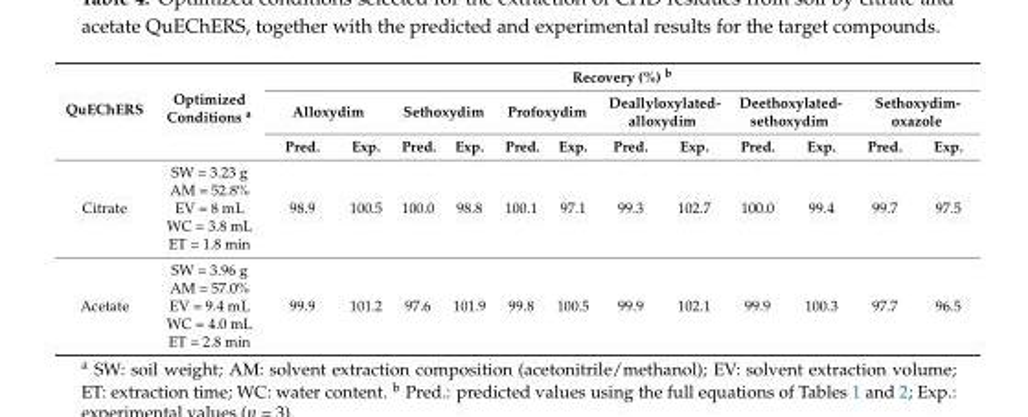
<table><thead><tr><td rowspan="3">QuEChERS</td><td rowspan="3">Optimized Conditions <sup>a</sup></td><td colspan="12">Recovery (%) <sup>b</sup></td></tr><tr><td colspan="2">Alloxydim</td><td colspan="2">Sethoxydim</td><td colspan="2">Profoxydim</td><td colspan="2">Deallyloxylated- alloxydim</td><td colspan="2">Deethoxylated- sethoxydim</td><td colspan="2">Sethoxydim- oxazole</td></tr><tr><td>Pred.</td><td>Exp.</td><td>Pred.</td><td>Exp.</td><td>Pred.</td><td>Exp.</td><td>Pred.</td><td>Exp.</td><td>Pred.</td><td>Exp.</td><td>Pred.</td><td>Exp.</td></tr></thead><tbody><tr><td>Citrate</td><td>SW = 3.23 g AM = 52.8% EV = 8 mL WC = 3.8 mL ET = 1.8 min</td><td>98.9</td><td>100.5</td><td>100.0</td><td>98.8</td><td>100.1</td><td>97.1</td><td>99.3</td><td>102.7</td><td>100.0</td><td>99.4</td><td>99.7</td><td>97.5</td></tr><tr><td>Acetate</td><td>SW = 3.96 g AM = 57.0% EV = 9.4 mL WC = 4.0 mL ET = 2.8 min</td><td>99.9</td><td>101.2</td><td>97.6</td><td>101.9</td><td>99.8</td><td>100.5</td><td>99.9</td><td>102.1</td><td>99.9</td><td>100.3</td><td>97.7</td><td>96.5</td></tr></tbody></table>